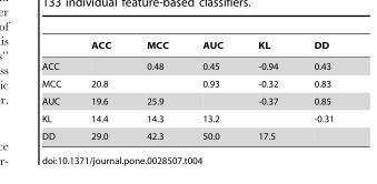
<table><thead><tr><td></td><td>ACC</td><td>MCC</td><td>AUC</td><td>KL</td><td>DD</td></tr></thead><tbody><tr><td>ACC</td><td></td><td>0.48</td><td>0.45</td><td>-0.94</td><td>0.43</td></tr><tr><td>MCC</td><td>20.8</td><td></td><td>0.93</td><td>-0.32</td><td>0.83</td></tr><tr><td>AUC</td><td>19.6</td><td>25.9</td><td></td><td>-0.37</td><td>0.85</td></tr><tr><td>KL</td><td>14.4</td><td>14.3</td><td>13.2</td><td></td><td>-0.31</td></tr><tr><td>DD</td><td>29.0</td><td>42.3</td><td>50.0</td><td>17.5</td><td></td></tr></tbody></table>